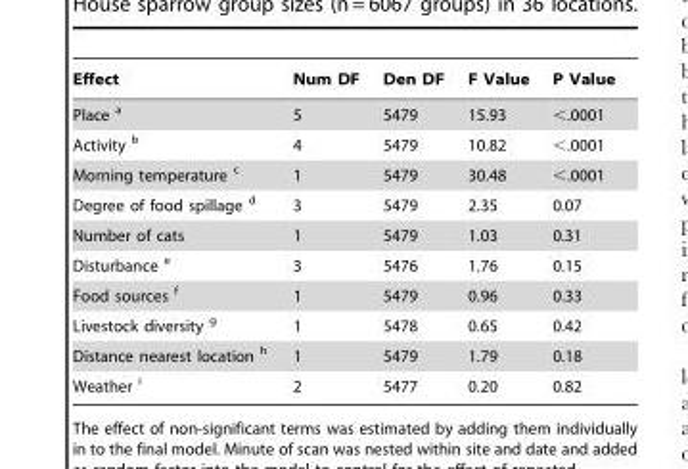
<table><thead><tr><td>Effect</td><td>Num DF</td><td>Den DF</td><td>F Value</td><td>P Value</td></tr></thead><tbody><tr><td>Place <sup>a</sup></td><td>5</td><td>5479</td><td>15.93</td><td>&lt;.0001</td></tr><tr><td>Activity <sup>b</sup></td><td>4</td><td>5479</td><td>10.82</td><td>&lt;.0001</td></tr><tr><td>Morning temperature <sup>c</sup></td><td>1</td><td>5479</td><td>30.48</td><td>&lt;.0001</td></tr><tr><td>Degree of food spillage <sup>d</sup></td><td>3</td><td>5479</td><td>2.35</td><td>0.07</td></tr><tr><td>Number of cats</td><td>1</td><td>5479</td><td>1.03</td><td>0.31</td></tr><tr><td>Disturbance <sup>e</sup></td><td>3</td><td>5476</td><td>1.76</td><td>0.15</td></tr><tr><td>Food sources <sup>f</sup></td><td>1</td><td>5479</td><td>0.96</td><td>0.33</td></tr><tr><td>Livestock diversity <sup>g</sup></td><td>1</td><td>5478</td><td>0.65</td><td>0.42</td></tr><tr><td>Distance nearest location <sup>h</sup></td><td>1</td><td>5479</td><td>1.79</td><td>0.18</td></tr><tr><td>Weather <sup>i</sup></td><td>2</td><td>5477</td><td>0.20</td><td>0.82</td></tr></tbody></table>